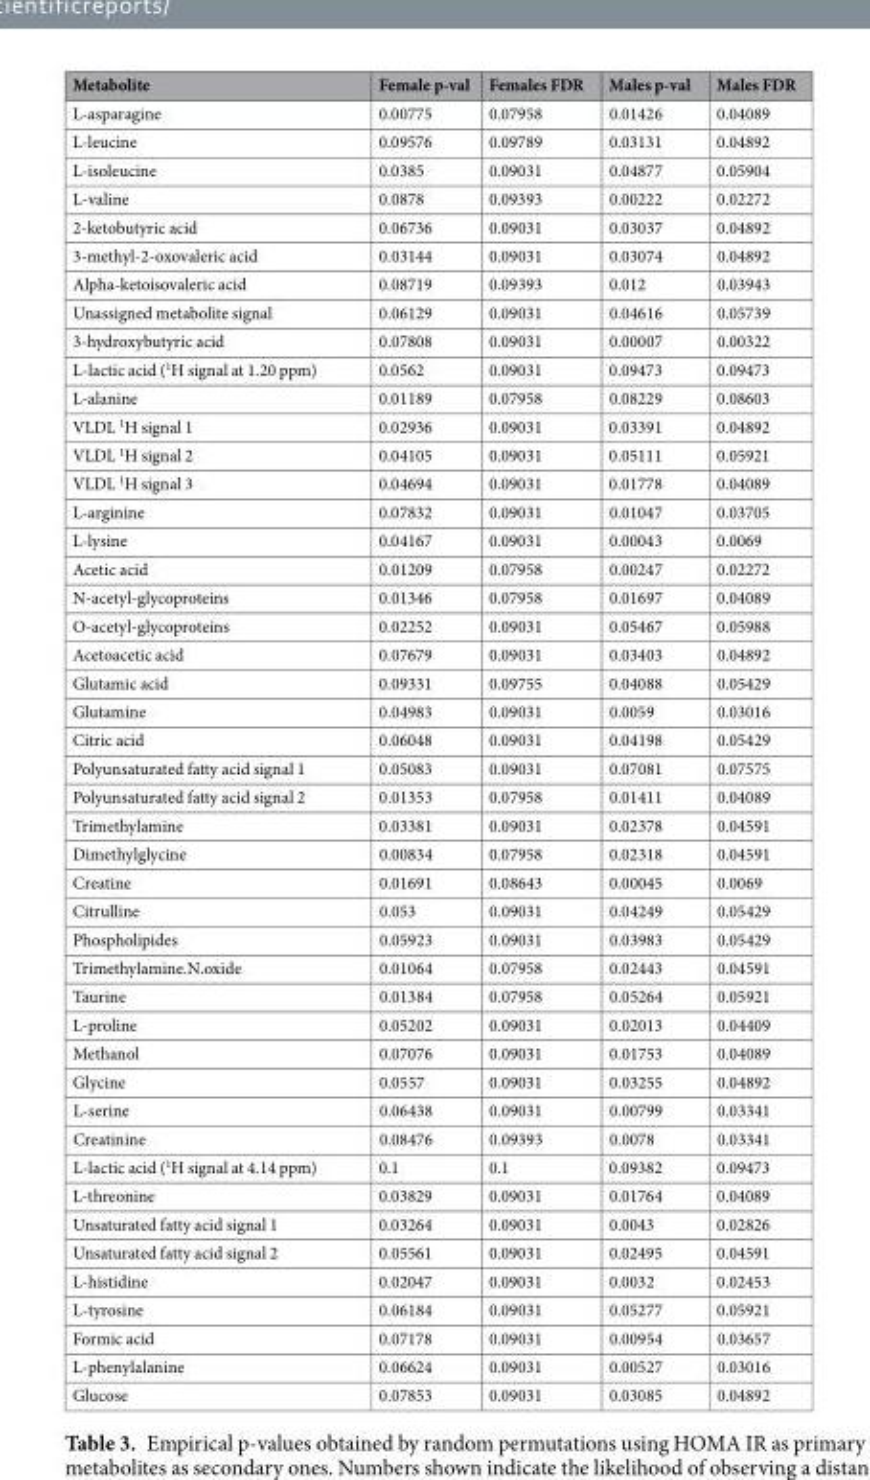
<table><thead><tr><td>Metabolite</td><td>Female p-val</td><td>Females FDR</td><td>Males p-val</td><td>Males FDR</td></tr></thead><tbody><tr><td>L-asparagine</td><td>0.00775</td><td>0.07958</td><td>0.01426</td><td>0.04089</td></tr><tr><td>L-leucine</td><td>0.09576</td><td>0.09789</td><td>0.03131</td><td>0.04892</td></tr><tr><td>L-isoleucine</td><td>0.0385</td><td>0.09031</td><td>0.04877</td><td>0.05904</td></tr><tr><td>L-valine</td><td>0.0878</td><td>0.09393</td><td>0.00222</td><td>0.02272</td></tr><tr><td>2-ketobutyric acid</td><td>0.06736</td><td>0.09031</td><td>0.03037</td><td>0.04892</td></tr><tr><td>3-methyl-2-oxovaleric acid</td><td>0.03144</td><td>0.09031</td><td>0.03074</td><td>0.04892</td></tr><tr><td>Alpha-ketoisovaleric acid</td><td>0.08719</td><td>0.09393</td><td>0.012</td><td>0.03943</td></tr><tr><td>Unassigned metabolite signal</td><td>0.06129</td><td>0.09031</td><td>0.04616</td><td>0.05739</td></tr><tr><td>3-hydroxybutyric acid</td><td>0.07808</td><td>0.09031</td><td>0.00007</td><td>0.00322</td></tr><tr><td>L-lactic acid (<sup>1</sup>H signal at 1.20 ppm)</td><td>0.0562</td><td>0.09031</td><td>0.09473</td><td>0.09473</td></tr><tr><td>L-alanine</td><td>0.01189</td><td>0.07958</td><td>0.08229</td><td>0.08603</td></tr><tr><td>VLDL <sup>1</sup>H signal 1</td><td>0.02936</td><td>0.09031</td><td>0.03391</td><td>0.04892</td></tr><tr><td>VLDL <sup>1</sup>H signal 2</td><td>0.04105</td><td>0.09031</td><td>0.05111</td><td>0.05921</td></tr><tr><td>VLDL <sup>1</sup>H signal 3</td><td>0.04694</td><td>0.09031</td><td>0.01778</td><td>0.04089</td></tr><tr><td>L-arginine</td><td>0.07832</td><td>0.09031</td><td>0.01047</td><td>0.03705</td></tr><tr><td>L-lysine</td><td>0.04167</td><td>0.09031</td><td>0.00043</td><td>0.0069</td></tr><tr><td>Acetic acid</td><td>0.01209</td><td>0.07958</td><td>0.00247</td><td>0.02272</td></tr><tr><td>N-acetyl-glycoproteins</td><td>0.01346</td><td>0.07958</td><td>0.01697</td><td>0.04089</td></tr><tr><td>O-acetyl-glycoproteins</td><td>0.02252</td><td>0.09031</td><td>0.05467</td><td>0.05988</td></tr><tr><td>Acetoacetic acid</td><td>0.07679</td><td>0.09031</td><td>0.03403</td><td>0.04892</td></tr><tr><td>Glutamic acid</td><td>0.09331</td><td>0.09755</td><td>0.04088</td><td>0.05429</td></tr><tr><td>Glutamine</td><td>0.04983</td><td>0.09031</td><td>0.0059</td><td>0.03016</td></tr><tr><td>Citric acid</td><td>0.06048</td><td>0.09031</td><td>0.04198</td><td>0.05429</td></tr><tr><td>Polyunsaturated fatty acid signal 1</td><td>0.05083</td><td>0.09031</td><td>0.07081</td><td>0.07575</td></tr><tr><td>Polyunsaturated fatty acid signal 2</td><td>0.01353</td><td>0.07958</td><td>0.01411</td><td>0.04089</td></tr><tr><td>Trimethylamine</td><td>0.03381</td><td>0.09031</td><td>0.02378</td><td>0.04591</td></tr><tr><td>Dimethylglycine</td><td>0.00834</td><td>0.07958</td><td>0.02318</td><td>0.04591</td></tr><tr><td>Creatine</td><td>0.01691</td><td>0.08643</td><td>0.00045</td><td>0.0069</td></tr><tr><td>Citrulline</td><td>0.053</td><td>0.09031</td><td>0.04249</td><td>0.05429</td></tr><tr><td>Phospholipides</td><td>0.05923</td><td>0.09031</td><td>0.03983</td><td>0.05429</td></tr><tr><td>Trimethylamine.N.oxide</td><td>0.01064</td><td>0.07958</td><td>0.02443</td><td>0.04591</td></tr><tr><td>Taurine</td><td>0.01384</td><td>0.07958</td><td>0.05264</td><td>0.05921</td></tr><tr><td>L-proline</td><td>0.05202</td><td>0.09031</td><td>0.02013</td><td>0.04409</td></tr><tr><td>Methanol</td><td>0.07076</td><td>0.09031</td><td>0.01753</td><td>0.04089</td></tr><tr><td>Glycine</td><td>0.0557</td><td>0.09031</td><td>0.03255</td><td>0.04892</td></tr><tr><td>L-serine</td><td>0.06438</td><td>0.09031</td><td>0.00799</td><td>0.03341</td></tr><tr><td>Creatinine</td><td>0.08476</td><td>0.09393</td><td>0.0078</td><td>0.03341</td></tr><tr><td>L-lactic acid (<sup>1</sup>H signal at 4.14 ppm)</td><td>0.1</td><td>0.1</td><td>0.09382</td><td>0.09473</td></tr><tr><td>L-threonine</td><td>0.03829</td><td>0.09031</td><td>0.01764</td><td>0.04089</td></tr><tr><td>Unsaturated fatty acid signal 1</td><td>0.03264</td><td>0.09031</td><td>0.0043</td><td>0.02826</td></tr><tr><td>Unsaturated fatty acid signal 2</td><td>0.05561</td><td>0.09031</td><td>0.02495</td><td>0.04591</td></tr><tr><td>L-histidine</td><td>0.02047</td><td>0.09031</td><td>0.0032</td><td>0.02453</td></tr><tr><td>L-tyrosine</td><td>0.06184</td><td>0.09031</td><td>0.05277</td><td>0.05921</td></tr><tr><td>Formic acid</td><td>0.07178</td><td>0.09031</td><td>0.00954</td><td>0.03657</td></tr><tr><td>L-phenylalanine</td><td>0.06624</td><td>0.09031</td><td>0.00527</td><td>0.03016</td></tr><tr><td>Glucose</td><td>0.07853</td><td>0.09031</td><td>0.03085</td><td>0.04892</td></tr></tbody></table>